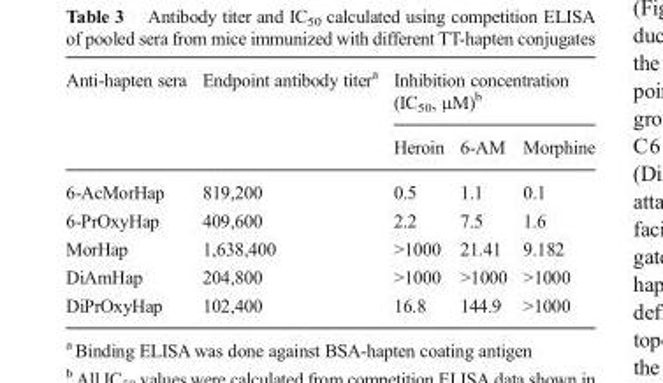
<table><thead><tr><td rowspan="2">Anti-hapten sera</td><td rowspan="2">Endpoint antibody titer<sup>a</sup></td><td colspan="3">Inhibition concentration (IC<sub>50</sub>, μM)<sup>b</sup></td></tr><tr><td>Heroin</td><td>6-AM</td><td>Morphine</td></tr></thead><tbody><tr><td>6-AcMorHap</td><td>819,200</td><td>0.5</td><td>1.1</td><td>0.1</td></tr><tr><td>6-PrOxyHap</td><td>409,600</td><td>2.2</td><td>7.5</td><td>1.6</td></tr><tr><td>MorHap</td><td>1,638,400</td><td>&gt;1000</td><td>21.41</td><td>9.182</td></tr><tr><td>DiAmHap</td><td>204,800</td><td>&gt;1000</td><td>&gt;1000</td><td>&gt;1000</td></tr><tr><td>DiPrOxyHap</td><td>102,400</td><td>16.8</td><td>144.9</td><td>&gt;1000</td></tr></tbody></table>